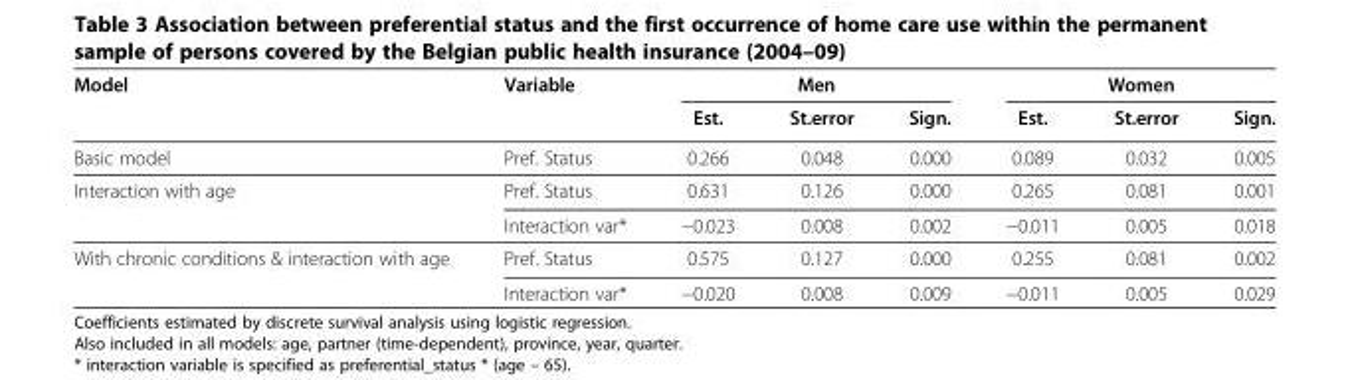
<table><thead><tr><td rowspan="2">Model</td><td rowspan="2">Variable</td><td colspan="3">Men</td><td colspan="3">Women</td></tr><tr><td>Est.</td><td>St.error</td><td>Sign.</td><td>Est.</td><td>St.error</td><td>Sign.</td></tr></thead><tbody><tr><td>Basic model</td><td>Pref. Status</td><td>0.266</td><td>0.048</td><td>0.000</td><td>0.089</td><td>0.032</td><td>0.005</td></tr><tr><td rowspan="2">Interaction with age</td><td>Pref. Status</td><td>0.631</td><td>0.126</td><td>0.000</td><td>0.265</td><td>0.081</td><td>0.001</td></tr><tr><td>Interaction var*</td><td>−0.023</td><td>0.008</td><td>0.002</td><td>−0.011</td><td>0.005</td><td>0.018</td></tr><tr><td rowspan="2">With chronic conditions &amp; interaction with age</td><td>Pref. Status</td><td>0.575</td><td>0.127</td><td>0.000</td><td>0.255</td><td>0.081</td><td>0.002</td></tr><tr><td>Interaction var*</td><td>−0.020</td><td>0.008</td><td>0.009</td><td>−0.011</td><td>0.005</td><td>0.029</td></tr></tbody></table>